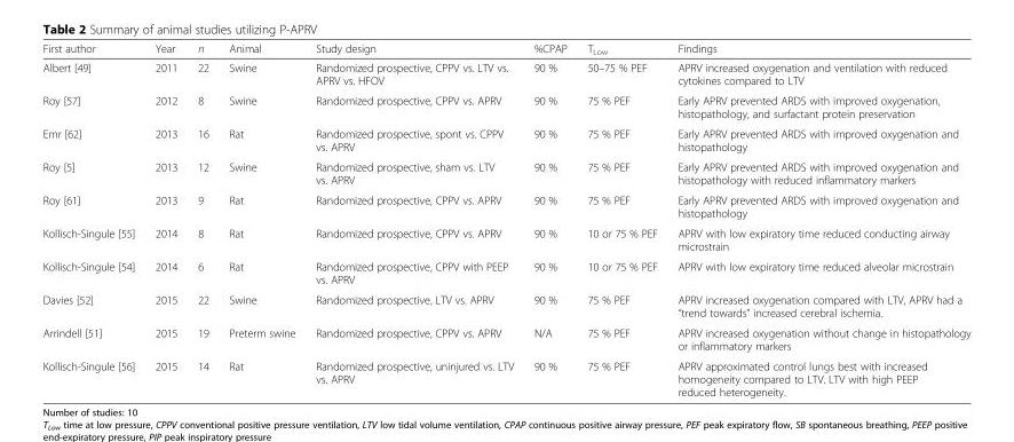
<table><thead><tr><td>First author</td><td>Year</td><td>n</td><td>Animal</td><td>Study design</td><td>%CPAP</td><td>T<sub>Low</sub></td><td>Findings</td></tr></thead><tbody><tr><td>Albert [49]</td><td>2011</td><td>22</td><td>Swine</td><td>Randomized prospective, CPPV vs. LTV vs. APRV vs. HFOV</td><td>90 %</td><td>50–75 % PEF</td><td>APRV increased oxygenation and ventilation with reduced cytokines compared to LTV</td></tr><tr><td>Roy [57]</td><td>2012</td><td>8</td><td>Swine</td><td>Randomized prospective, CPPV vs. APRV</td><td>90 %</td><td>75 % PEF</td><td>Early APRV prevented ARDS with improved oxygenation, histopathology, and surfactant protein preservation</td></tr><tr><td>Emr [62]</td><td>2013</td><td>16</td><td>Rat</td><td>Randomized prospective, spont vs. CPPV vs. APRV</td><td>90 %</td><td>75 % PEF</td><td>Early APRV prevented ARDS with improved oxygenation and histopathology</td></tr><tr><td>Roy [5]</td><td>2013</td><td>12</td><td>Swine</td><td>Randomized prospective, sham vs. LTV vs. APRV</td><td>90 %</td><td>75 % PEF</td><td>Early APRV prevented ARDS with improved oxygenation and histopathology with reduced inflammatory markers</td></tr><tr><td>Roy [61]</td><td>2013</td><td>9</td><td>Rat</td><td>Randomized prospective, CPPV vs. APRV</td><td>90 %</td><td>75 % PEF</td><td>Early APRV prevented ARDS with improved oxygenation and histopathology</td></tr><tr><td>Kollisch-Singule [55]</td><td>2014</td><td>8</td><td>Rat</td><td>Randomized prospective, CPPV vs. APRV</td><td>90 %</td><td>10 or 75 % PEF</td><td>APRV with low expiratory time reduced conducting airway microstrain</td></tr><tr><td>Kollisch-Singule [54]</td><td>2014</td><td>6</td><td>Rat</td><td>Randomized prospective, CPPV with PEEP vs. APRV</td><td>90 %</td><td>10 or 75 % PEF</td><td>APRV with low expiratory time reduced alveolar microstrain</td></tr><tr><td>Davies [52]</td><td>2015</td><td>22</td><td>Swine</td><td>Randomized prospective, LTV vs. APRV</td><td>90 %</td><td>75 % PEF</td><td>APRV increased oxygenation compared with LTV, APRV had a “trend towards” increased cerebral ischemia.</td></tr><tr><td>Arrindell [51]</td><td>2015</td><td>19</td><td>Preterm swine</td><td>Randomized prospective, CPPV vs. APRV</td><td>N/A</td><td>75 % PEF</td><td>APRV increased oxygenation without change in histopathology or inflammatory markers</td></tr><tr><td>Kollisch-Singule [56]</td><td>2015</td><td>14</td><td>Rat</td><td>Randomized prospective, uninjured vs. LTV vs. APRV</td><td>90 %</td><td>75 % PEF</td><td>APRV approximated control lungs best with increased homogeneity compared to LTV. LTV with high PEEP reduced heterogeneity.</td></tr></tbody></table>